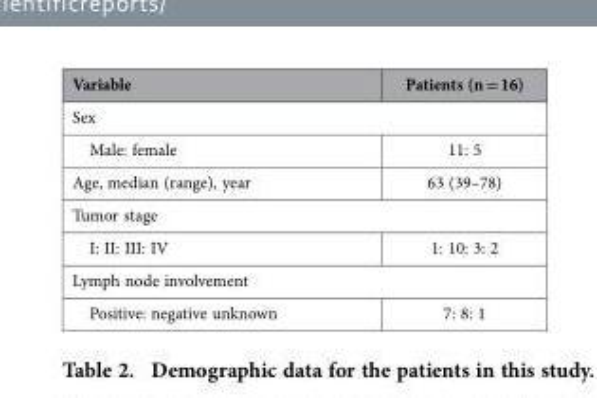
<table><thead><tr><td>Variable</td><td>Patients (n = 16)</td></tr></thead><tbody><tr><td colspan="2">Sex</td></tr><tr><td>Male: female</td><td>11: 5</td></tr><tr><td>Age, median (range), year</td><td>63 (39–78)</td></tr><tr><td colspan="2">Tumor stage</td></tr><tr><td>I: II: III: IV</td><td>1: 10: 3: 2</td></tr><tr><td colspan="2">Lymph node involvement</td></tr><tr><td>Positive: negative unknown</td><td>7: 8: 1</td></tr></tbody></table>